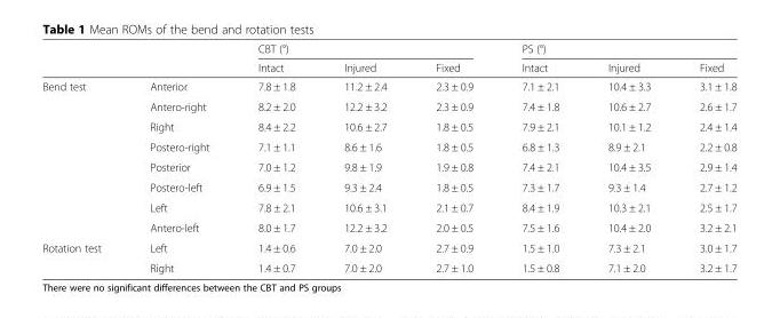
<table><thead><tr><td rowspan="2"></td><td rowspan="2"></td><td colspan="3">CBT (°)</td><td colspan="3">PS (°)</td></tr><tr><td>Intact</td><td>Injured</td><td>Fixed</td><td>Intact</td><td>Injured</td><td>Fixed</td></tr></thead><tbody><tr><td rowspan="8">Bend test</td><td>Anterior</td><td>7.8 ± 1.8</td><td>11.2 ± 2.4</td><td>2.3 ± 0.9</td><td>7.1 ± 2.1</td><td>10.4 ± 3.3</td><td>3.1 ± 1.8</td></tr><tr><td>Antero-right</td><td>8.2 ± 2.0</td><td>12.2 ± 3.2</td><td>2.3 ± 0.9</td><td>7.4 ± 1.8</td><td>10.6 ± 2.7</td><td>2.6 ± 1.7</td></tr><tr><td>Right</td><td>8.4 ± 2.2</td><td>10.6 ± 2.7</td><td>1.8 ± 0.5</td><td>7.9 ± 2.1</td><td>10.1 ± 1.2</td><td>2.4 ± 1.4</td></tr><tr><td>Postero-right</td><td>7.1 ± 1.1</td><td>8.6 ± 1.6</td><td>1.8 ± 0.5</td><td>6.8 ± 1.3</td><td>8.9 ± 2.1</td><td>2.2 ± 0.8</td></tr><tr><td>Posterior</td><td>7.0 ± 1.2</td><td>9.8 ± 1.9</td><td>1.9 ± 0.8</td><td>7.4 ± 2.1</td><td>10.4 ± 3.5</td><td>2.9 ± 1.4</td></tr><tr><td>Postero-left</td><td>6.9 ± 1.5</td><td>9.3 ± 2.4</td><td>1.8 ± 0.5</td><td>7.3 ± 1.7</td><td>9.3 ± 1.4</td><td>2.7 ± 1.2</td></tr><tr><td>Left</td><td>7.8 ± 2.1</td><td>10.6 ± 3.1</td><td>2.1 ± 0.7</td><td>8.4 ± 1.9</td><td>10.3 ± 2.1</td><td>2.5 ± 1.7</td></tr><tr><td>Antero-left</td><td>8.0 ± 1.7</td><td>12.2 ± 3.2</td><td>2.0 ± 0.5</td><td>7.5 ± 1.6</td><td>10.4 ± 2.0</td><td>3.2 ± 2.1</td></tr><tr><td rowspan="2">Rotation test</td><td>Left</td><td>1.4 ± 0.6</td><td>7.0 ± 2.0</td><td>2.7 ± 0.9</td><td>1.5 ± 1.0</td><td>7.3 ± 2.1</td><td>3.0 ± 1.7</td></tr><tr><td>Right</td><td>1.4 ± 0.7</td><td>7.0 ± 2.0</td><td>2.7 ± 1.0</td><td>1.5 ± 0.8</td><td>7.1 ± 2.0</td><td>3.2 ± 1.7</td></tr></tbody></table>